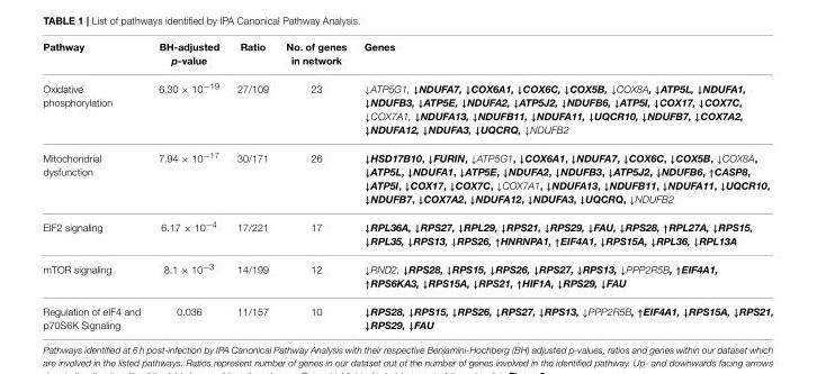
<table><thead><tr><td>Pathway</td><td>BH-adjusted p-value</td><td>Ratio</td><td>No. of genes in network</td><td>Genes</td></tr></thead><tbody><tr><td>Oxidative phosphorylation</td><td>6.30 × 10<sup>−19</sup></td><td>27/109</td><td>23</td><td>↓ATP5G1, ↓NDUFA7, ↓COX6A1, ↓COX6C, ↓COX5B, ↓COX8A, ↓ATP5L, ↓NDUFA1, ↓NDUFB3, ↓ATP5E, ↓NDUFA2, ↓ATP5J2, ↓NDUFB6, ↓ATP5I, ↓COX17, ↓COX7C, ↓COX7A1, ↓NDUFA13, ↓NDUFB11, ↓NDUFA11, ↓UQCR10, ↓NDUFB7, ↓COX7A2, ↓NDUFA12, ↓NDUFA3, ↓UQCRQ, ↓NDUFB2</td></tr><tr><td>Mitochondrial dysfunction</td><td>7.94 × 10<sup>−17</sup></td><td>30/171</td><td>26</td><td>↓HSD17B10, ↓FURIN, ↓ATP5G1, ↓COX6A1, ↓NDUFA7, ↓COX6C, ↓COX5B, ↓COX8A, ↓ATP5L, ↓NDUFA1, ↓ATP5E, ↓NDUFA2, ↓NDUFB3, ↓ATP5J2, ↓NDUFB6, ↑CASP8, ↓ATP5I, ↓COX17, ↓COX7C, ↓COX7A1, ↓NDUFA13, ↓NDUFB11, ↓NDUFA11, ↓UQCR10, ↓NDUFB7, ↓COX7A2, ↓NDUFA12, ↓NDUFA3, ↓UQCRQ, ↓NDUFB2</td></tr><tr><td>EIF2 signaling</td><td>6.17 × 10<sup>−4</sup></td><td>17/221</td><td>17</td><td>↓RPL36A, ↓RPS27, ↓RPL29, ↓RPS21, ↓RPS29, ↓FAU, ↓RPS28, ↑RPL27A, ↓RPS15, ↓RPL35, ↓RPS13, ↓RPS26, ↑HNRNPA1, ↑EIF4A1, ↓RPS15A, ↓RPL36, ↓RPL13A</td></tr><tr><td>mTOR signaling</td><td>8.1 × 10<sup>−3</sup></td><td>14/199</td><td>12</td><td>↓RND2, ↓RPS28, ↓RPS15, ↓RPS26, ↓RPS27, ↓RPS13, ↓PPP2R5B, ↑EIF4A1, ↑RPS6KA3, ↓RPS15A, ↓RPS21, ↑HIF1A, ↓RPS29, ↓FAU</td></tr><tr><td>Regulation of eIF4 and p70S6K Signaling</td><td>0.036</td><td>11/157</td><td>10</td><td>↓RPS28, ↓RPS15, ↓RPS26, ↓RPS27, ↓RPS13, ↓PPP2R5B, ↑EIF4A1, ↓RPS15A, ↓RPS21, ↓RPS29, ↓FAU</td></tr></tbody></table>